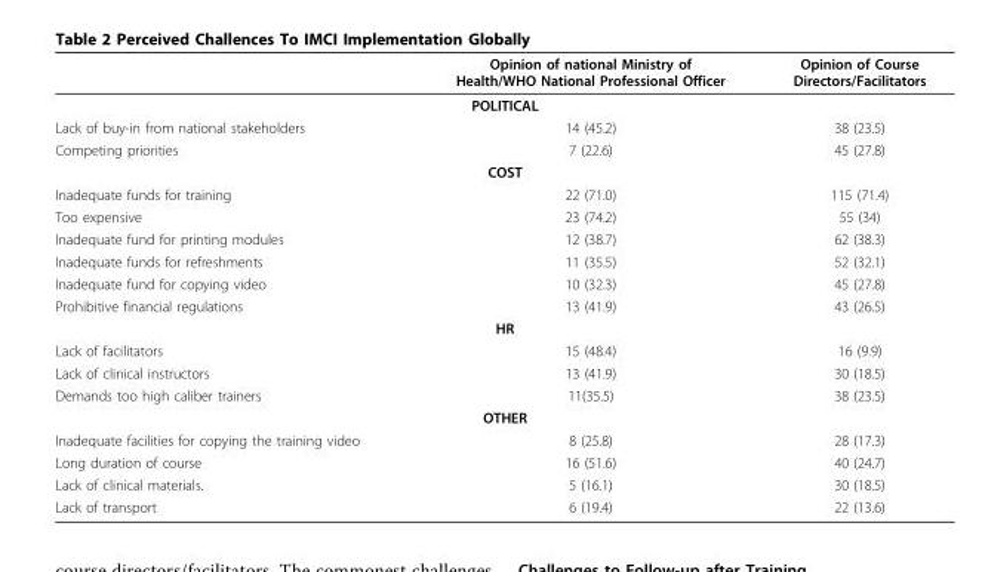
<table><thead><tr><td></td><td>Opinion of national Ministry of Health/WHO National Professional Officer</td><td>Opinion of Course Directors/Facilitators</td></tr></thead><tbody><tr><td colspan="3">POLITICAL</td></tr><tr><td>Lack of buy-in from national stakeholders</td><td>14 (45.2)</td><td>38 (23.5)</td></tr><tr><td>Competing priorities</td><td>7 (22.6)</td><td>45 (27.8)</td></tr><tr><td colspan="3">COST</td></tr><tr><td>Inadequate funds for training</td><td>22 (71.0)</td><td>115 (71.4)</td></tr><tr><td>Too expensive</td><td>23 (74.2)</td><td>55 (34)</td></tr><tr><td>Inadequate fund for printing modules</td><td>12 (38.7)</td><td>62 (38.3)</td></tr><tr><td>Inadequate funds for refreshments</td><td>11 (35.5)</td><td>52 (32.1)</td></tr><tr><td>Inadequate fund for copying video</td><td>10 (32.3)</td><td>45 (27.8)</td></tr><tr><td>Prohibitive financial regulations</td><td>13 (41.9)</td><td>43 (26.5)</td></tr><tr><td colspan="3">HR</td></tr><tr><td>Lack of facilitators</td><td>15 (48.4)</td><td>16 (9.9)</td></tr><tr><td>Lack of clinical instructors</td><td>13 (41.9)</td><td>30 (18.5)</td></tr><tr><td>Demands too high caliber trainers</td><td>11(35.5)</td><td>38 (23.5)</td></tr><tr><td colspan="3">OTHER</td></tr><tr><td>Inadequate facilities for copying the training video</td><td>8 (25.8)</td><td>28 (17.3)</td></tr><tr><td>Long duration of course</td><td>16 (51.6)</td><td>40 (24.7)</td></tr><tr><td>Lack of clinical materials.</td><td>5 (16.1)</td><td>30 (18.5)</td></tr><tr><td>Lack of transport</td><td>6 (19.4)</td><td>22 (13.6)</td></tr></tbody></table>